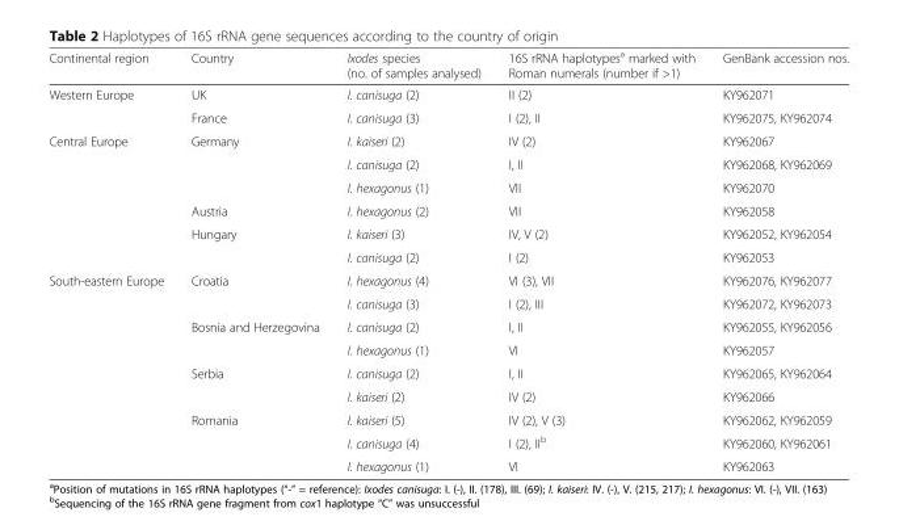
<table><thead><tr><td>Continental region</td><td>Country</td><td>Ixodes species (no. of samples analysed)</td><td>16S rRNA haplotypes<sup>a</sup> marked with Roman numerals (number if &gt;1)</td><td>GenBank accession nos.</td></tr></thead><tbody><tr><td rowspan="2">Western Europe</td><td>UK</td><td>I. canisuga (2)</td><td>II (2)</td><td>KY962071</td></tr><tr><td>France</td><td>I. canisuga (3)</td><td>I (2), II</td><td>KY962075, KY962074</td></tr><tr><td rowspan="6">Central Europe</td><td rowspan="3">Germany</td><td>I. kaiseri (2)</td><td>IV (2)</td><td>KY962067</td></tr><tr><td>I. canisuga (2)</td><td>I, II</td><td>KY962068, KY962069</td></tr><tr><td>I. hexagonus (1)</td><td>VII</td><td>KY962070</td></tr><tr><td>Austria</td><td>I. hexagonus (2)</td><td>VII</td><td>KY962058</td></tr><tr><td rowspan="2">Hungary</td><td>I. kaiseri (3)</td><td>IV, V (2)</td><td>KY962052, KY962054</td></tr><tr><td>I. canisuga (2)</td><td>I (2)</td><td>KY962053</td></tr><tr><td rowspan="9">South-eastern Europe</td><td rowspan="2">Croatia</td><td>I. hexagonus (4)</td><td>VI (3), VII</td><td>KY962076, KY962077</td></tr><tr><td>I. canisuga (3)</td><td>I (2), III</td><td>KY962072, KY962073</td></tr><tr><td rowspan="2">Bosnia and Herzegovina</td><td>I. canisuga (2)</td><td>I, II</td><td>KY962055, KY962056</td></tr><tr><td>I. hexagonus (1)</td><td>VI</td><td>KY962057</td></tr><tr><td rowspan="2">Serbia</td><td>I. canisuga (2)</td><td>I, II</td><td>KY962065, KY962064</td></tr><tr><td>I. kaiseri (2)</td><td>IV (2)</td><td>KY962066</td></tr><tr><td rowspan="3">Romania</td><td>I. kaiseri (5)</td><td>IV (2), V (3)</td><td>KY962062, KY962059</td></tr><tr><td>I. canisuga (4)</td><td>I (2), II<sup>b</sup></td><td>KY962060, KY962061</td></tr><tr><td>I. hexagonus (1)</td><td>VI</td><td>KY962063</td></tr></tbody></table>